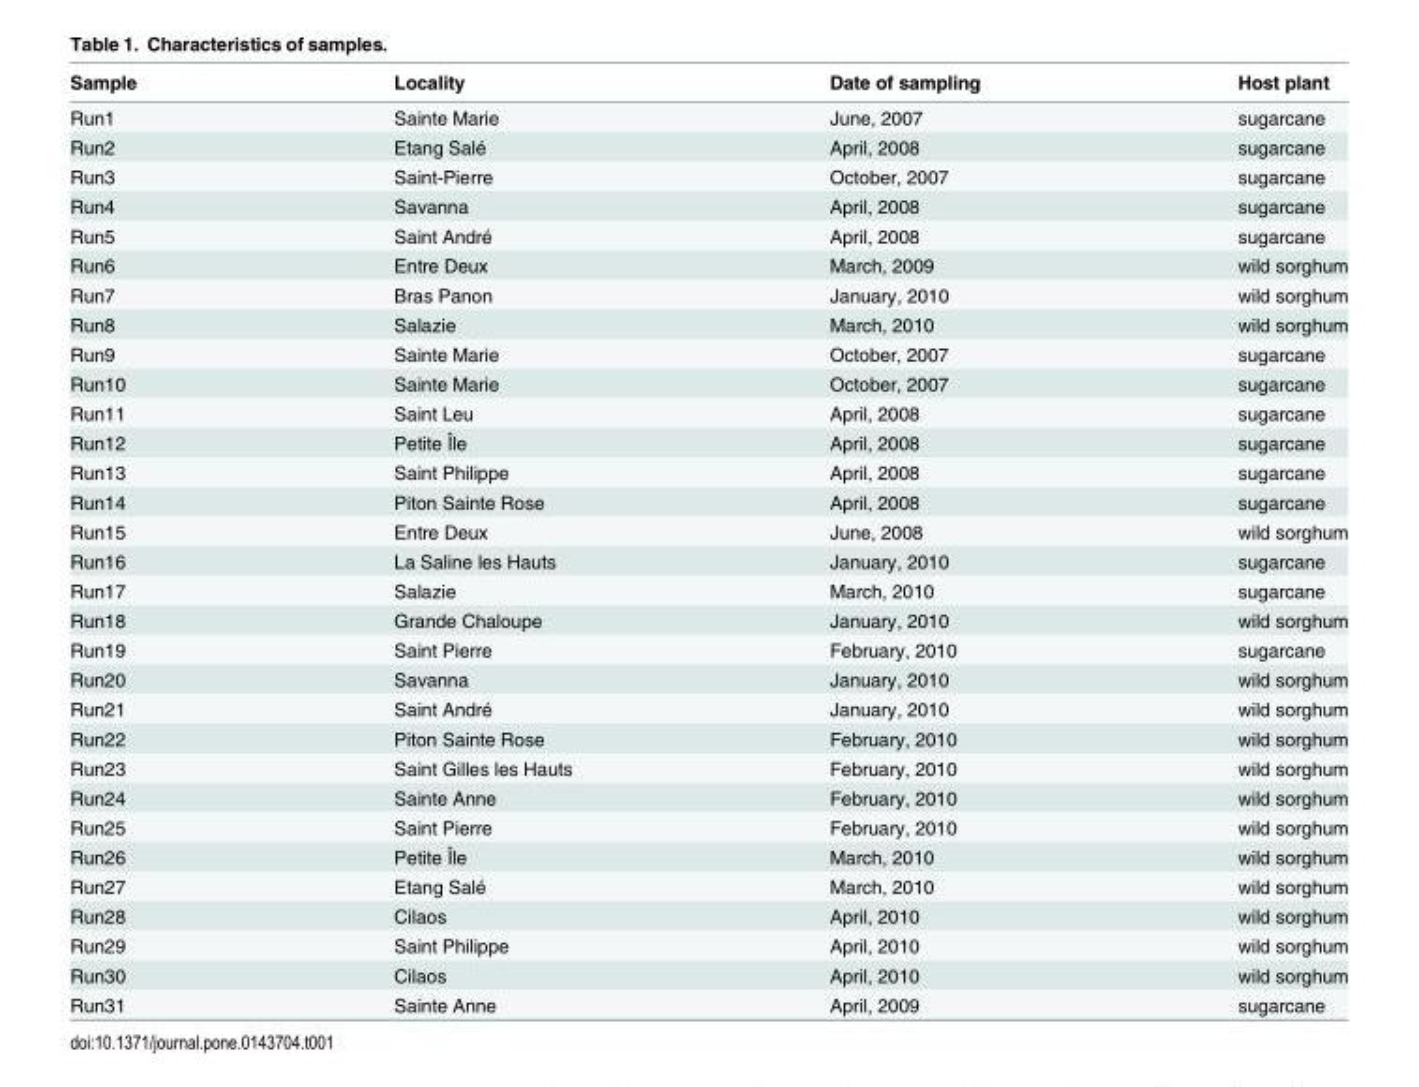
<table><thead><tr><td>Sample</td><td>Locality</td><td>Date of sampling</td><td>Host plant</td></tr></thead><tbody><tr><td>Run1</td><td>Sainte Marie</td><td>June, 2007</td><td>sugarcane</td></tr><tr><td>Run2</td><td>Etang Salé</td><td>April, 2008</td><td>sugarcane</td></tr><tr><td>Run3</td><td>Saint-Pierre</td><td>October, 2007</td><td>sugarcane</td></tr><tr><td>Run4</td><td>Savanna</td><td>April, 2008</td><td>sugarcane</td></tr><tr><td>Run5</td><td>Saint André</td><td>April, 2008</td><td>sugarcane</td></tr><tr><td>Run6</td><td>Entre Deux</td><td>March, 2009</td><td>wild sorghum</td></tr><tr><td>Run7</td><td>Bras Panon</td><td>January, 2010</td><td>wild sorghum</td></tr><tr><td>Run8</td><td>Salazie</td><td>March, 2010</td><td>wild sorghum</td></tr><tr><td>Run9</td><td>Sainte Marie</td><td>October, 2007</td><td>sugarcane</td></tr><tr><td>Run10</td><td>Sainte Marie</td><td>October, 2007</td><td>sugarcane</td></tr><tr><td>Run11</td><td>Saint Leu</td><td>April, 2008</td><td>sugarcane</td></tr><tr><td>Run12</td><td>Petite Île</td><td>April, 2008</td><td>sugarcane</td></tr><tr><td>Run13</td><td>Saint Philippe</td><td>April, 2008</td><td>sugarcane</td></tr><tr><td>Run14</td><td>Piton Sainte Rose</td><td>April, 2008</td><td>sugarcane</td></tr><tr><td>Run15</td><td>Entre Deux</td><td>June, 2008</td><td>wild sorghum</td></tr><tr><td>Run16</td><td>La Saline les Hauts</td><td>January, 2010</td><td>sugarcane</td></tr><tr><td>Run17</td><td>Salazie</td><td>March, 2010</td><td>sugarcane</td></tr><tr><td>Run18</td><td>Grande Chaloupe</td><td>January, 2010</td><td>wild sorghum</td></tr><tr><td>Run19</td><td>Saint Pierre</td><td>February, 2010</td><td>sugarcane</td></tr><tr><td>Run20</td><td>Savanna</td><td>January, 2010</td><td>wild sorghum</td></tr><tr><td>Run21</td><td>Saint André</td><td>January, 2010</td><td>wild sorghum</td></tr><tr><td>Run22</td><td>Piton Sainte Rose</td><td>February, 2010</td><td>wild sorghum</td></tr><tr><td>Run23</td><td>Saint Gilles les Hauts</td><td>February, 2010</td><td>wild sorghum</td></tr><tr><td>Run24</td><td>Sainte Anne</td><td>February, 2010</td><td>wild sorghum</td></tr><tr><td>Run25</td><td>Saint Pierre</td><td>February, 2010</td><td>wild sorghum</td></tr><tr><td>Run26</td><td>Petite Île</td><td>March, 2010</td><td>wild sorghum</td></tr><tr><td>Run27</td><td>Etang Salé</td><td>March, 2010</td><td>wild sorghum</td></tr><tr><td>Run28</td><td>Cilaos</td><td>April, 2010</td><td>wild sorghum</td></tr><tr><td>Run29</td><td>Saint Philippe</td><td>April, 2010</td><td>wild sorghum</td></tr><tr><td>Run30</td><td>Cilaos</td><td>April, 2010</td><td>wild sorghum</td></tr><tr><td>Run31</td><td>Sainte Anne</td><td>April, 2009</td><td>sugarcane</td></tr></tbody></table>